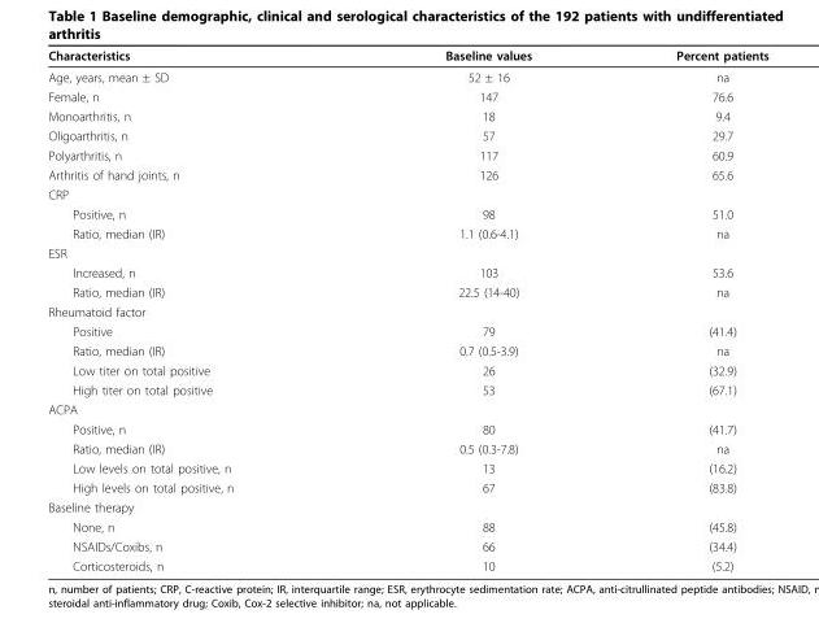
<table><thead><tr><td>Characteristics</td><td>Baseline values</td><td>Percent patients</td></tr></thead><tbody><tr><td>Age, years, mean ± SD</td><td>52 ± 16</td><td>na</td></tr><tr><td>Female, n</td><td>147</td><td>76.6</td></tr><tr><td>Monoarthritis, n</td><td>18</td><td>9.4</td></tr><tr><td>Oligoarthritis, n</td><td>57</td><td>29.7</td></tr><tr><td>Polyarthritis, n</td><td>117</td><td>60.9</td></tr><tr><td>Arthritis of hand joints, n</td><td>126</td><td>65.6</td></tr><tr><td colspan="3">CRP</td></tr><tr><td>Positive, n</td><td>98</td><td>51.0</td></tr><tr><td>Ratio, median (IR)</td><td>1.1 (0.6-4.1)</td><td>na</td></tr><tr><td colspan="3">ESR</td></tr><tr><td>Increased, n</td><td>103</td><td>53.6</td></tr><tr><td>Ratio, median (IR)</td><td>22.5 (14-40)</td><td>na</td></tr><tr><td colspan="3">Rheumatoid factor</td></tr><tr><td>Positive</td><td>79</td><td>(41.4)</td></tr><tr><td>Ratio, median (IR)</td><td>0.7 (0.5-3.9)</td><td>na</td></tr><tr><td>Low titer on total positive</td><td>26</td><td>(32.9)</td></tr><tr><td>High titer on total positive</td><td>53</td><td>(67.1)</td></tr><tr><td colspan="3">ACPA</td></tr><tr><td>Positive, n</td><td>80</td><td>(41.7)</td></tr><tr><td>Ratio, median (IR)</td><td>0.5 (0.3-7.8)</td><td>na</td></tr><tr><td>Low levels on total positive, n</td><td>13</td><td>(16.2)</td></tr><tr><td>High levels on total positive, n</td><td>67</td><td>(83.8)</td></tr><tr><td colspan="3">Baseline therapy</td></tr><tr><td>None, n</td><td>88</td><td>(45.8)</td></tr><tr><td>NSAIDs/Coxibs, n</td><td>66</td><td>(34.4)</td></tr><tr><td>Corticosteroids, n</td><td>10</td><td>(5.2)</td></tr></tbody></table>